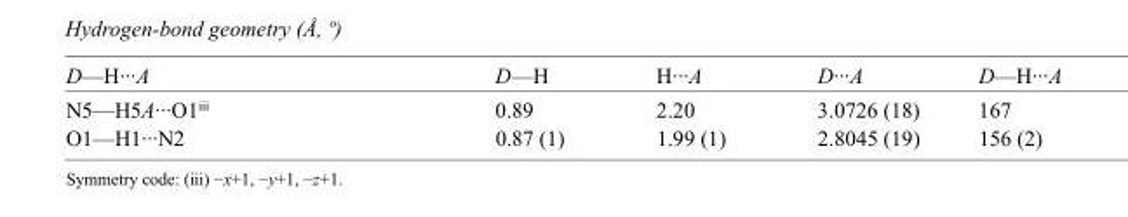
<table><tbody><tr><td>D—H···A</td><td>D—H</td><td>H···A</td><td>D···A</td><td>D—H···A</td></tr><tr><td>N5—H5A···O1<sup>iii</sup></td><td>0.89</td><td>2.20</td><td>3.0726 (18)</td><td>167</td></tr><tr><td>O1—H1···N2</td><td>0.87 (1)</td><td>1.99 (1)</td><td>2.8045 (19)</td><td>156 (2)</td></tr></tbody></table>